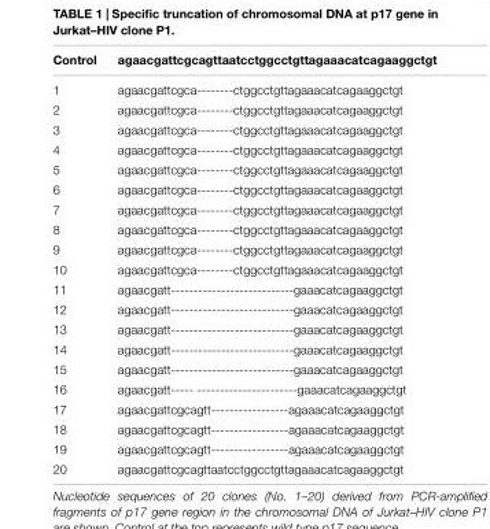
<table><thead><tr><td>Control</td><td>agaacgattcgcagttaatcctggcctgttagaaacatcagaaggctgt</td></tr></thead><tbody><tr><td>1</td><td>agaacgattcgca--------ctggcctgttagaaacatcagaaggctgt</td></tr><tr><td>2</td><td>agaacgattcgca--------ctggcctgttagaaacatcagaaggctgt</td></tr><tr><td>3</td><td>agaacgattcgca--------ctggcctgttagaaacatcagaaggctgt</td></tr><tr><td>4</td><td>agaacgattcgca--------ctggcctgttagaaacatcagaaggctgt</td></tr><tr><td>5</td><td>agaacgattcgca--------ctggcctgttagaaacatcagaaggctgt</td></tr><tr><td>6</td><td>agaacgattcgca--------ctggcctgttagaaacatcagaaggctgt</td></tr><tr><td>7</td><td>agaacgattcgca--------ctggcctgttagaaacatcagaaggctgt</td></tr><tr><td>8</td><td>agaacgattcgca--------ctggcctgttagaaacatcagaaggctgt</td></tr><tr><td>9</td><td>agaacgattcgca--------ctggcctgttagaaacatcagaaggctgt</td></tr><tr><td>10</td><td>agaacgattcgca--------ctggcctgttagaaacatcagaaggctgt</td></tr><tr><td>11</td><td>agaacgatt---------------------------gaaacatcagaaggctgt</td></tr><tr><td>12</td><td>agaacgatt---------------------------gaaacatcagaaggctgt</td></tr><tr><td>13</td><td>agaacgatt---------------------------gaaacatcagaaggctgt</td></tr><tr><td>14</td><td>agaacgatt---------------------------gaaacatcagaaggctgt</td></tr><tr><td>15</td><td>agaacgatt---------------------------gaaacatcagaaggctgt</td></tr><tr><td>16</td><td>agaacgatt----- ----------------------gaaacatcagaaggctgt</td></tr><tr><td>17</td><td>agaacgattcgcagtt-----------------agaaacatcagaaggctgt</td></tr><tr><td>18</td><td>agaacgattcgcagtt-----------------agaaacatcagaaggctgt</td></tr><tr><td>19</td><td>agaacgattcgcagtt-----------------agaaacatcagaaggctgt</td></tr><tr><td>20</td><td>agaacgattcgcagttaatcctggcctgttagaaacatcagaaggctgt</td></tr></tbody></table>